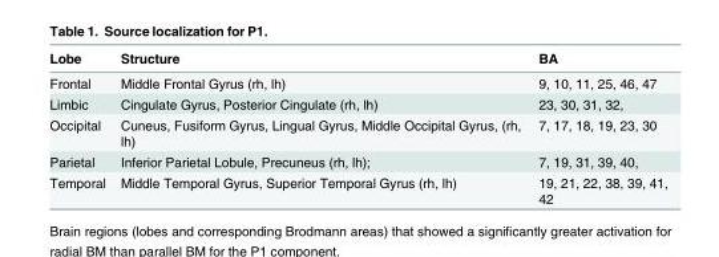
<table><thead><tr><td>Lobe</td><td>Structure</td><td>BA</td></tr></thead><tbody><tr><td>Frontal</td><td>Middle Frontal Gyrus (rh, lh)</td><td>9, 10, 11, 25, 46, 47</td></tr><tr><td>Limbic</td><td>Cingulate Gyrus, Posterior Cingulate (rh, lh)</td><td>23, 30, 31, 32,</td></tr><tr><td>Occipital</td><td>Cuneus, Fusiform Gyrus, Lingual Gyrus, Middle Occipital Gyrus, (rh, lh)</td><td>7, 17, 18, 19, 23, 30</td></tr><tr><td>Parietal</td><td>Inferior Parietal Lobule, Precuneus (rh, lh);</td><td>7, 19, 31, 39, 40,</td></tr><tr><td>Temporal</td><td>Middle Temporal Gyrus, Superior Temporal Gyrus (rh, lh)</td><td>19, 21, 22, 38, 39, 41, 42</td></tr></tbody></table>